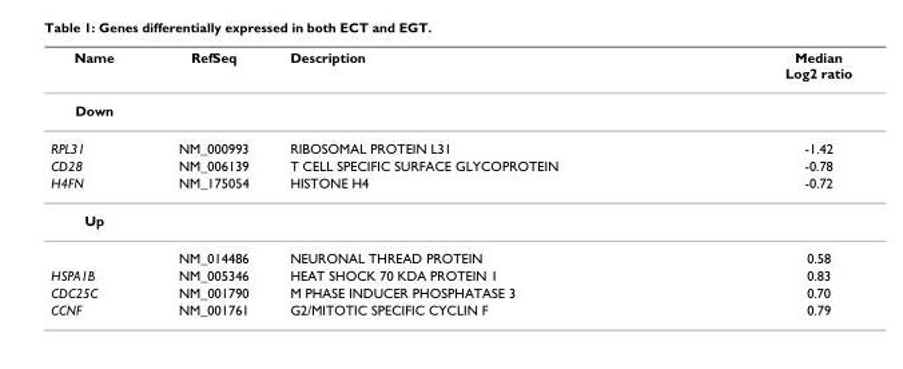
<table><thead><tr><td>Name</td><td>RefSeq</td><td>Description</td><td>Median Log2 ratio</td></tr></thead><tbody><tr><td colspan="4">Down</td></tr><tr><td>RPL31</td><td>NM_000993</td><td>RIBOSOMAL PROTEIN L31</td><td>-1.42</td></tr><tr><td>CD28</td><td>NM_006139</td><td>T CELL SPECIFIC SURFACE GLYCOPROTEIN</td><td>-0.78</td></tr><tr><td>H4FN</td><td>NM_175054</td><td>HISTONE H4</td><td>-0.72</td></tr><tr><td colspan="4">Up</td></tr><tr><td></td><td>NM_014486</td><td>NEURONAL THREAD PROTEIN</td><td>0.58</td></tr><tr><td>HSPA1B</td><td>NM_005346</td><td>HEAT SHOCK 70 KDA PROTEIN 1</td><td>0.83</td></tr><tr><td>CDC25C</td><td>NM_001790</td><td>M PHASE INDUCER PHOSPHATASE 3</td><td>0.70</td></tr><tr><td>CCNF</td><td>NM_001761</td><td>G2/MITOTIC SPECIFIC CYCLIN F</td><td>0.79</td></tr></tbody></table>